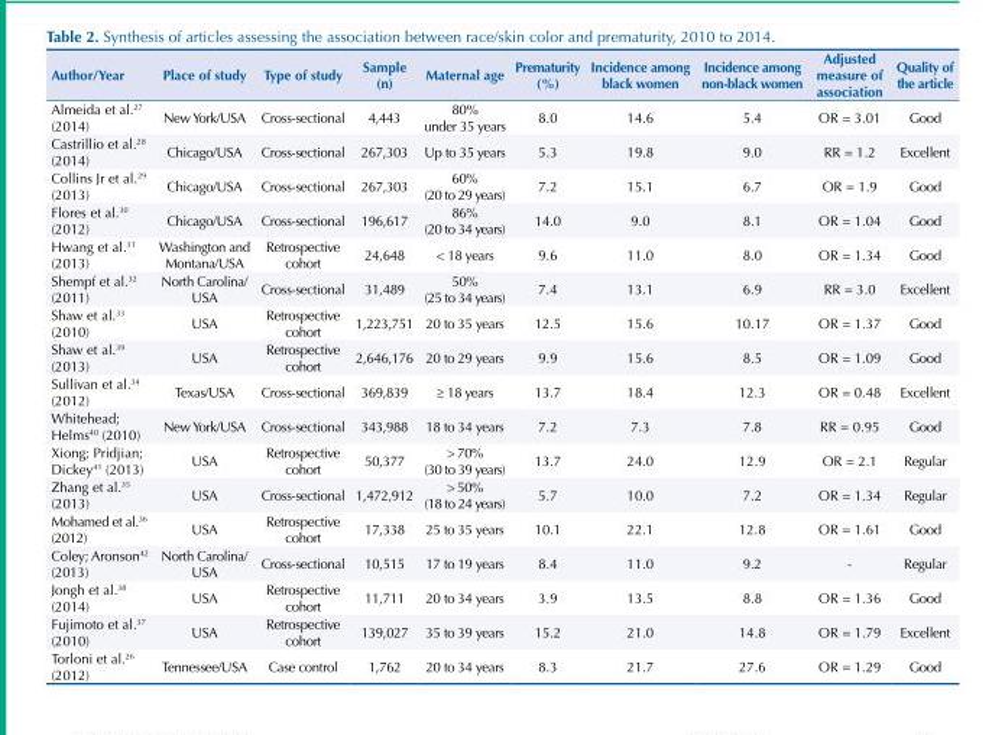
<table><thead><tr><td>Author/Year</td><td>Place of study</td><td>Type of study</td><td>Sample (n)</td><td>Maternal age</td><td>Prematurity (%)</td><td>Incidence among black women</td><td>Incidence among non-black women</td><td>Adjusted measure of association</td><td>Quality of the article</td></tr></thead><tbody><tr><td>Almeida et al.<sup>27</sup> (2014)</td><td>New York/USA</td><td>Cross-sectional</td><td>4,443</td><td>80% under 35 years</td><td>8.0</td><td>14.6</td><td>5.4</td><td>OR = 3.01</td><td>Good</td></tr><tr><td>Castrillio et al.<sup>28</sup> (2014)</td><td>Chicago/USA</td><td>Cross-sectional</td><td>267,303</td><td>Up to 35 years</td><td>5.3</td><td>19.8</td><td>9.0</td><td>RR = 1.2</td><td>Excellent</td></tr><tr><td>Collins Jr et al.<sup>29</sup> (2013)</td><td>Chicago/USA</td><td>Cross-sectional</td><td>267,303</td><td>60% (20 to 29 years)</td><td>7.2</td><td>15.1</td><td>6.7</td><td>OR = 1.9</td><td>Good</td></tr><tr><td>Flores et al.<sup>30</sup> (2012)</td><td>Chicago/USA</td><td>Cross-sectional</td><td>196,617</td><td>86% (20 to 34 years)</td><td>14.0</td><td>9.0</td><td>8.1</td><td>OR = 1.04</td><td>Good</td></tr><tr><td>Hwang et al.<sup>31</sup> (2013)</td><td>Washington and Montana/USA</td><td>Retrospective cohort</td><td>24,648</td><td>&lt; 18 years</td><td>9.6</td><td>11.0</td><td>8.0</td><td>OR = 1.34</td><td>Good</td></tr><tr><td>Shempf et al.<sup>32</sup> (2011)</td><td>North Carolina/ USA</td><td>Cross-sectional</td><td>31,489</td><td>50% (25 to 34 years)</td><td>7.4</td><td>13.1</td><td>6.9</td><td>RR = 3.0</td><td>Excellent</td></tr><tr><td>Shaw et al.<sup>33</sup> (2010)</td><td>USA</td><td>Retrospective cohort</td><td>1,223,751</td><td>20 to 35 years</td><td>12.5</td><td>15.6</td><td>10.17</td><td>OR = 1.37</td><td>Good</td></tr><tr><td>Shaw et al.<sup>39</sup> (2013)</td><td>USA</td><td>Retrospective cohort</td><td>2,646,176</td><td>20 to 29 years</td><td>9.9</td><td>15.6</td><td>8.5</td><td>OR = 1.09</td><td>Good</td></tr><tr><td>Sullivan et al.<sup>34</sup> (2012)</td><td>Texas/USA</td><td>Cross-sectional</td><td>369,839</td><td>≥ 18 years</td><td>13.7</td><td>18.4</td><td>12.3</td><td>OR = 0.48</td><td>Excellent</td></tr><tr><td>Whitehead; Helms<sup>40</sup> (2010)</td><td>New York/USA</td><td>Cross-sectional</td><td>343,988</td><td>18 to 34 years</td><td>7.2</td><td>7.3</td><td>7.8</td><td>RR = 0.95</td><td>Good</td></tr><tr><td>Xiong; Pridjian; Dickey<sup>41</sup> (2013)</td><td>USA</td><td>Retrospective cohort</td><td>50,377</td><td>&gt; 70% (30 to 39 years)</td><td>13.7</td><td>24.0</td><td>12.9</td><td>OR = 2.1</td><td>Regular</td></tr><tr><td>Zhang et al.<sup>35</sup> (2013)</td><td>USA</td><td>Cross-sectional</td><td>1,472,912</td><td>&gt; 50% (18 to 24 years)</td><td>5.7</td><td>10.0</td><td>7.2</td><td>OR = 1.34</td><td>Regular</td></tr><tr><td>Mohamed et al.<sup>36</sup> (2012)</td><td>USA</td><td>Retrospective cohort</td><td>17,338</td><td>25 to 35 years</td><td>10.1</td><td>22.1</td><td>12.8</td><td>OR = 1.61</td><td>Good</td></tr><tr><td>Coley; Aronson<sup>42</sup> (2013)</td><td>North Carolina/ USA</td><td>Cross-sectional</td><td>10,515</td><td>17 to 19 years</td><td>8.4</td><td>11.0</td><td>9.2</td><td>-</td><td>Regular</td></tr><tr><td>Jongh et al.<sup>38</sup> (2014)</td><td>USA</td><td>Retrospective cohort</td><td>11,711</td><td>20 to 34 years</td><td>3.9</td><td>13.5</td><td>8.8</td><td>OR = 1.36</td><td>Good</td></tr><tr><td>Fujimoto et al.<sup>37</sup> (2010)</td><td>USA</td><td>Retrospective cohort</td><td>139,027</td><td>35 to 39 years</td><td>15.2</td><td>21.0</td><td>14.8</td><td>OR = 1.79</td><td>Excellent</td></tr><tr><td>Torloni et al.<sup>26</sup> (2012)</td><td>Tennessee/USA</td><td>Case control</td><td>1,762</td><td>20 to 34 years</td><td>8.3</td><td>21.7</td><td>27.6</td><td>OR = 1.29</td><td>Good</td></tr></tbody></table>